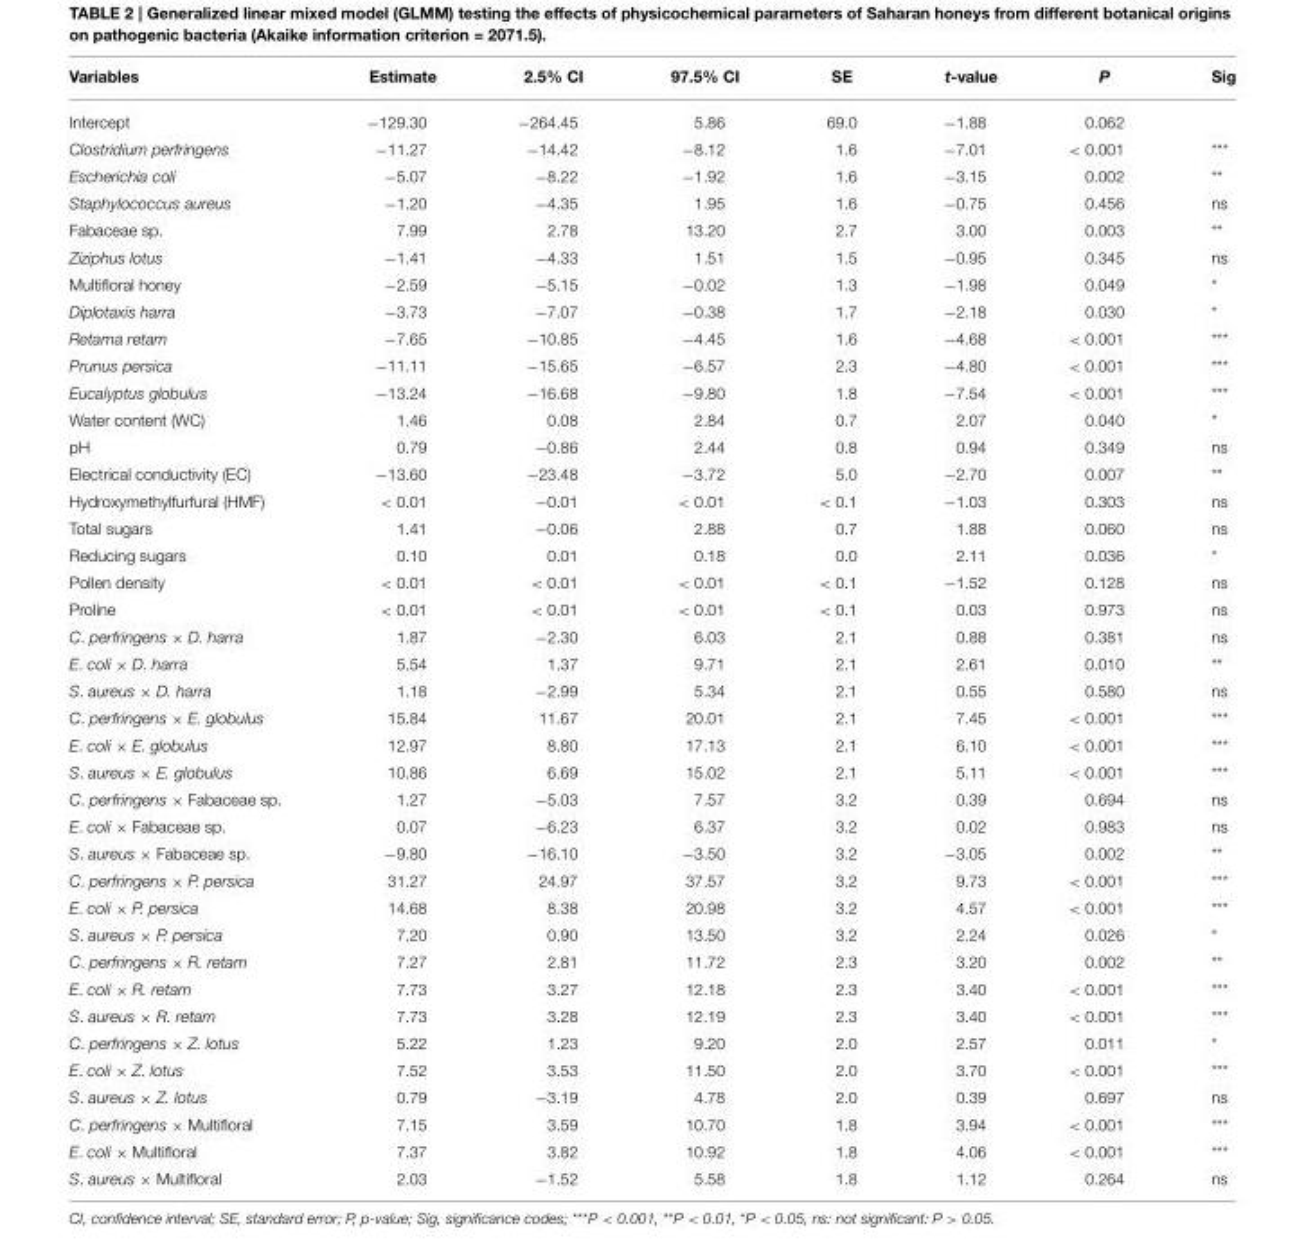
<table><thead><tr><td>Variables</td><td>Estimate</td><td>2.5% CI</td><td>97.5% CI</td><td>SE</td><td>t-value</td><td>P</td><td>Sig</td></tr></thead><tbody><tr><td>Intercept</td><td>−129.30</td><td>−264.45</td><td>5.86</td><td>69.0</td><td>−1.88</td><td>0.062</td><td></td></tr><tr><td>Clostridium perfringens</td><td>−11.27</td><td>−14.42</td><td>−8.12</td><td>1.6</td><td>−7.01</td><td>&lt; 0.001</td><td>***</td></tr><tr><td>Escherichia coli</td><td>−5.07</td><td>−8.22</td><td>−1.92</td><td>1.6</td><td>−3.15</td><td>0.002</td><td>**</td></tr><tr><td>Staphylococcus aureus</td><td>−1.20</td><td>−4.35</td><td>1.95</td><td>1.6</td><td>−0.75</td><td>0.456</td><td>ns</td></tr><tr><td>Fabaceae sp.</td><td>7.99</td><td>2.78</td><td>13.20</td><td>2.7</td><td>3.00</td><td>0.003</td><td>**</td></tr><tr><td>Ziziphus lotus</td><td>−1.41</td><td>−4.33</td><td>1.51</td><td>1.5</td><td>−0.95</td><td>0.345</td><td>ns</td></tr><tr><td>Multifloral honey</td><td>−2.59</td><td>−5.15</td><td>−0.02</td><td>1.3</td><td>−1.98</td><td>0.049</td><td>*</td></tr><tr><td>Diplotaxis harra</td><td>−3.73</td><td>−7.07</td><td>−0.38</td><td>1.7</td><td>−2.18</td><td>0.030</td><td>*</td></tr><tr><td>Retama retam</td><td>−7.65</td><td>−10.85</td><td>−4.45</td><td>1.6</td><td>−4.68</td><td>&lt; 0.001</td><td>***</td></tr><tr><td>Prunus persica</td><td>−11.11</td><td>−15.65</td><td>−6.57</td><td>2.3</td><td>−4.80</td><td>&lt; 0.001</td><td>***</td></tr><tr><td>Eucalyptus globulus</td><td>−13.24</td><td>−16.68</td><td>−9.80</td><td>1.8</td><td>−7.54</td><td>&lt; 0.001</td><td>***</td></tr><tr><td>Water content (WC)</td><td>1.46</td><td>0.08</td><td>2.84</td><td>0.7</td><td>2.07</td><td>0.040</td><td>*</td></tr><tr><td>pH</td><td>0.79</td><td>−0.86</td><td>2.44</td><td>0.8</td><td>0.94</td><td>0.349</td><td>ns</td></tr><tr><td>Electrical conductivity (EC)</td><td>−13.60</td><td>−23.48</td><td>−3.72</td><td>5.0</td><td>−2.70</td><td>0.007</td><td>**</td></tr><tr><td>Hydroxymethylfurfural (HMF)</td><td>&lt; 0.01</td><td>−0.01</td><td>&lt; 0.01</td><td>&lt; 0.1</td><td>−1.03</td><td>0.303</td><td>ns</td></tr><tr><td>Total sugars</td><td>1.41</td><td>−0.06</td><td>2.88</td><td>0.7</td><td>1.88</td><td>0.060</td><td>ns</td></tr><tr><td>Reducing sugars</td><td>0.10</td><td>0.01</td><td>0.18</td><td>0.0</td><td>2.11</td><td>0.036</td><td>*</td></tr><tr><td>Pollen density</td><td>&lt; 0.01</td><td>&lt; 0.01</td><td>&lt; 0.01</td><td>&lt; 0.1</td><td>−1.52</td><td>0.128</td><td>ns</td></tr><tr><td>Proline</td><td>&lt; 0.01</td><td>&lt; 0.01</td><td>&lt; 0.01</td><td>&lt; 0.1</td><td>0.03</td><td>0.973</td><td>ns</td></tr><tr><td>C. perfringens × D. harra</td><td>1.87</td><td>−2.30</td><td>6.03</td><td>2.1</td><td>0.88</td><td>0.381</td><td>ns</td></tr><tr><td>E. coli × D. harra</td><td>5.54</td><td>1.37</td><td>9.71</td><td>2.1</td><td>2.61</td><td>0.010</td><td>**</td></tr><tr><td>S. aureus × D. harra</td><td>1.18</td><td>−2.99</td><td>5.34</td><td>2.1</td><td>0.55</td><td>0.580</td><td>ns</td></tr><tr><td>C. perfringens × E. globulus</td><td>15.84</td><td>11.67</td><td>20.01</td><td>2.1</td><td>7.45</td><td>&lt; 0.001</td><td>***</td></tr><tr><td>E. coli × E. globulus</td><td>12.97</td><td>8.80</td><td>17.13</td><td>2.1</td><td>6.10</td><td>&lt; 0.001</td><td>***</td></tr><tr><td>S. aureus × E. globulus</td><td>10.86</td><td>6.69</td><td>15.02</td><td>2.1</td><td>5.11</td><td>&lt; 0.001</td><td>***</td></tr><tr><td>C. perfringens × Fabaceae sp.</td><td>1.27</td><td>−5.03</td><td>7.57</td><td>3.2</td><td>0.39</td><td>0.694</td><td>ns</td></tr><tr><td>E. coli × Fabaceae sp.</td><td>0.07</td><td>−6.23</td><td>6.37</td><td>3.2</td><td>0.02</td><td>0.983</td><td>ns</td></tr><tr><td>S. aureus × Fabaceae sp.</td><td>−9.80</td><td>−16.10</td><td>−3.50</td><td>3.2</td><td>−3.05</td><td>0.002</td><td>**</td></tr><tr><td>C. perfringens × P. persica</td><td>31.27</td><td>24.97</td><td>37.57</td><td>3.2</td><td>9.73</td><td>&lt; 0.001</td><td>***</td></tr><tr><td>E. coli × P. persica</td><td>14.68</td><td>8.38</td><td>20.98</td><td>3.2</td><td>4.57</td><td>&lt; 0.001</td><td>***</td></tr><tr><td>S. aureus × P. persica</td><td>7.20</td><td>0.90</td><td>13.50</td><td>3.2</td><td>2.24</td><td>0.026</td><td>*</td></tr><tr><td>C. perfringens × R. retam</td><td>7.27</td><td>2.81</td><td>11.72</td><td>2.3</td><td>3.20</td><td>0.002</td><td>**</td></tr><tr><td>E. coli × R. retam</td><td>7.73</td><td>3.27</td><td>12.18</td><td>2.3</td><td>3.40</td><td>&lt; 0.001</td><td>***</td></tr><tr><td>S. aureus × R. retam</td><td>7.73</td><td>3.28</td><td>12.19</td><td>2.3</td><td>3.40</td><td>&lt; 0.001</td><td>***</td></tr><tr><td>C. perfringens × Z. lotus</td><td>5.22</td><td>1.23</td><td>9.20</td><td>2.0</td><td>2.57</td><td>0.011</td><td>*</td></tr><tr><td>E. coli × Z. lotus</td><td>7.52</td><td>3.53</td><td>11.50</td><td>2.0</td><td>3.70</td><td>&lt; 0.001</td><td>***</td></tr><tr><td>S. aureus × Z. lotus</td><td>0.79</td><td>−3.19</td><td>4.78</td><td>2.0</td><td>0.39</td><td>0.697</td><td>ns</td></tr><tr><td>C. perfringens × Multifloral</td><td>7.15</td><td>3.59</td><td>10.70</td><td>1.8</td><td>3.94</td><td>&lt; 0.001</td><td>***</td></tr><tr><td>E. coli × Multifloral</td><td>7.37</td><td>3.82</td><td>10.92</td><td>1.8</td><td>4.06</td><td>&lt; 0.001</td><td>***</td></tr><tr><td>S. aureus × Multifloral</td><td>2.03</td><td>−1.52</td><td>5.58</td><td>1.8</td><td>1.12</td><td>0.264</td><td>ns</td></tr></tbody></table>